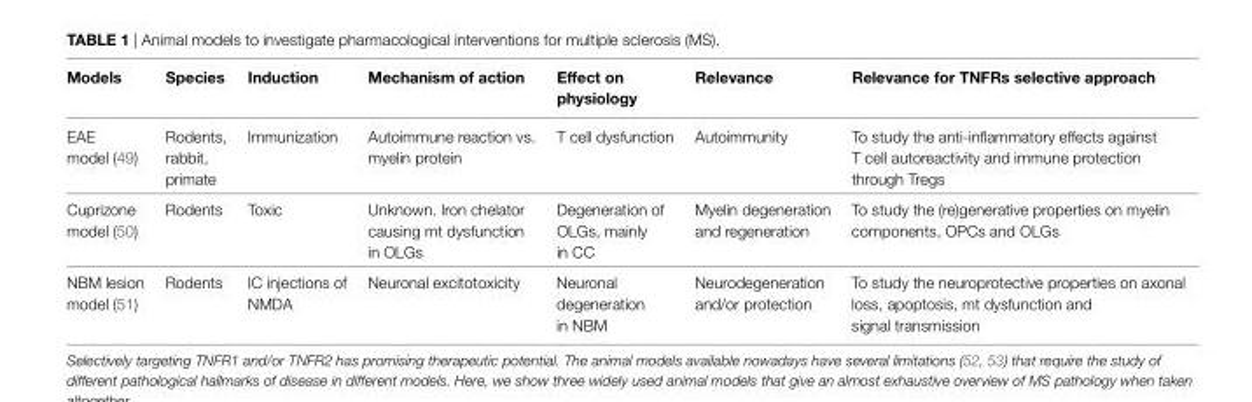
<table><thead><tr><td>Models</td><td>Species</td><td>induction</td><td>Mechanism of action</td><td>effect on physiology</td><td>Relevance</td><td>Relevance for TnFRs selective approach</td></tr></thead><tbody><tr><td>EAE model (49)</td><td>Rodents, rabbit, primate</td><td>Immunization</td><td>Autoimmune reaction vs. myelin protein</td><td>T cell dysfunction</td><td>Autoimmunity</td><td>To study the anti-inflammatory effects against T cell autoreactivity and immune protection through Tregs</td></tr><tr><td>Cuprizone model (50)</td><td>Rodents</td><td>Toxic</td><td>Unknown. Iron chelator causing mt dysfunction in OLGs</td><td>Degeneration of OLGs, mainly in CC</td><td>Myelin degeneration and regeneration</td><td>To study the (re)generative properties on myelin components, OPCs and OLGs</td></tr><tr><td>NBM lesion model (51)</td><td>Rodents</td><td>IC injections of NMDA</td><td>Neuronal excitotoxicity</td><td>Neuronal degeneration in NBM</td><td>Neurodegeneration and/or protection</td><td>To study the neuroprotective properties on axonal loss, apoptosis, mt dysfunction and signal transmission</td></tr></tbody></table>